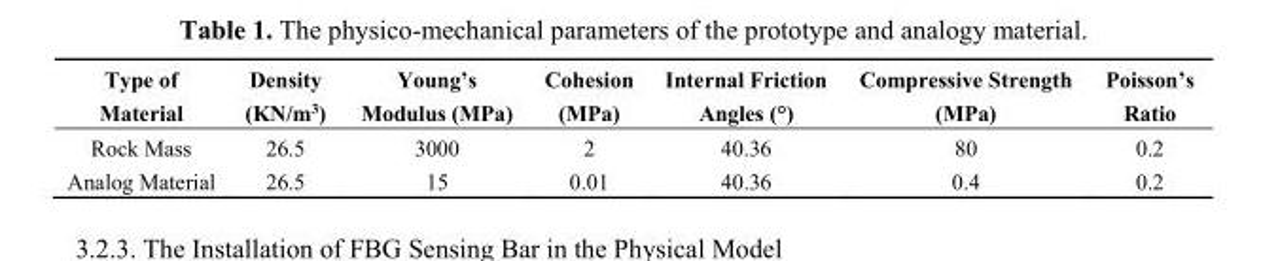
<table><thead><tr><td>Type of Material</td><td>Density (KN/m<sup>3</sup>)</td><td>Young’s Modulus (MPa)</td><td>Cohesion (MPa)</td><td>Internal Friction Angles (°)</td><td>Compressive Strength (MPa)</td><td>Poisson’s Ratio</td></tr></thead><tbody><tr><td>Rock Mass</td><td>26.5</td><td>3000</td><td>2</td><td>40.36</td><td>80</td><td>0.2</td></tr><tr><td>Analog Material</td><td>26.5</td><td>15</td><td>0.01</td><td>40.36</td><td>0.4</td><td>0.2</td></tr></tbody></table>